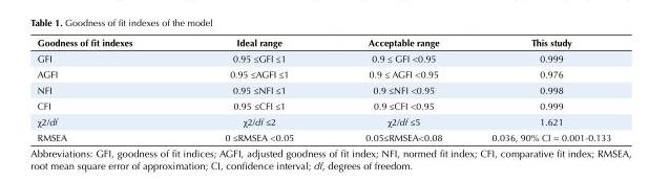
<table><tbody><tr><td>Goodness of fit indexes</td><td>Ideal range</td><td>Acceptable range</td><td>This study</td></tr><tr><td>GFI</td><td>0.95 ≤GFI ≤1</td><td>0.9 ≤ GFI &lt;0.95</td><td>0.999</td></tr><tr><td>AGFI</td><td>0.95 ≤AGFI ≤1</td><td>0.9 ≤ AGFI &lt;0.95</td><td>0.976</td></tr><tr><td>NFI</td><td>0.95 ≤NFI ≤1</td><td>0.9 ≤NFI &lt;0.95</td><td>0.998</td></tr><tr><td>CFI</td><td>0.95 ≤CFI ≤1</td><td>0.9 ≤CFI &lt;0.95</td><td>0.999</td></tr><tr><td>χ2/df</td><td>χ2/df ≤2</td><td>χ2/df ≤5</td><td>1.621</td></tr><tr><td>RMSEA</td><td>0 ≤RMSEA &lt;0.05</td><td>0.05≤RMSEA&lt;0.08</td><td>0.036, 90% CI = 0.001-0.133</td></tr></tbody></table>